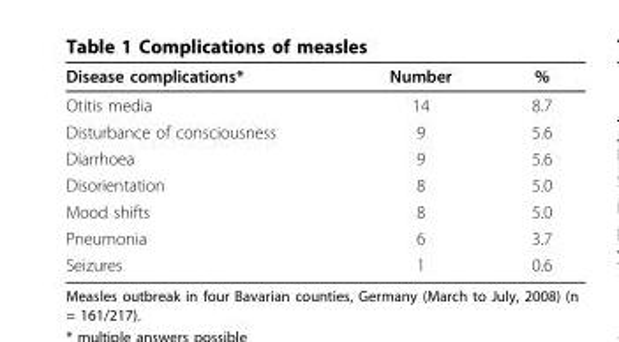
<table><thead><tr><td>Disease complications*</td><td>Number</td><td>%</td></tr></thead><tbody><tr><td>Otitis media</td><td>14</td><td>8.7</td></tr><tr><td>Disturbance of consciousness</td><td>9</td><td>5.6</td></tr><tr><td>Diarrhoea</td><td>9</td><td>5.6</td></tr><tr><td>Disorientation</td><td>8</td><td>5.0</td></tr><tr><td>Mood shifts</td><td>8</td><td>5.0</td></tr><tr><td>Pneumonia</td><td>6</td><td>3.7</td></tr><tr><td>Seizures</td><td>1</td><td>0.6</td></tr></tbody></table>